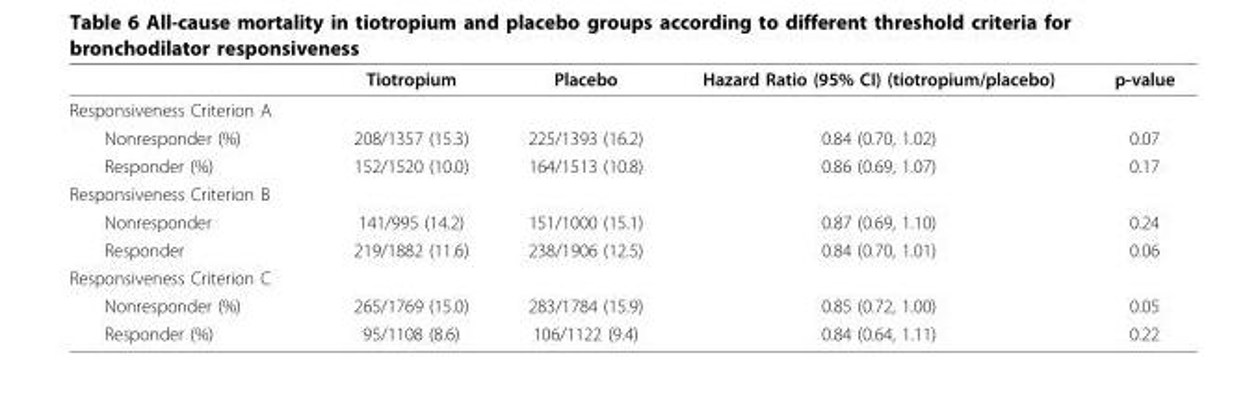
<table><thead><tr><td></td><td>Tiotropium</td><td>Placebo</td><td>Hazard Ratio (95% CI) (tiotropium/placebo)</td><td>p-value</td></tr></thead><tbody><tr><td colspan="5">Responsiveness Criterion A</td></tr><tr><td>Nonresponder (%)</td><td>208/1357 (15.3)</td><td>225/1393 (16.2)</td><td>0.84 (0.70, 1.02)</td><td>0.07</td></tr><tr><td>Responder (%)</td><td>152/1520 (10.0)</td><td>164/1513 (10.8)</td><td>0.86 (0.69, 1.07)</td><td>0.17</td></tr><tr><td colspan="5">Responsiveness Criterion B</td></tr><tr><td>Nonresponder</td><td>141/995 (14.2)</td><td>151/1000 (15.1)</td><td>0.87 (0.69, 1.10)</td><td>0.24</td></tr><tr><td>Responder</td><td>219/1882 (11.6)</td><td>238/1906 (12.5)</td><td>0.84 (0.70, 1.01)</td><td>0.06</td></tr><tr><td colspan="5">Responsiveness Criterion C</td></tr><tr><td>Nonresponder (%)</td><td>265/1769 (15.0)</td><td>283/1784 (15.9)</td><td>0.85 (0.72, 1.00)</td><td>0.05</td></tr><tr><td>Responder (%)</td><td>95/1108 (8.6)</td><td>106/1122 (9.4)</td><td>0.84 (0.64, 1.11)</td><td>0.22</td></tr></tbody></table>